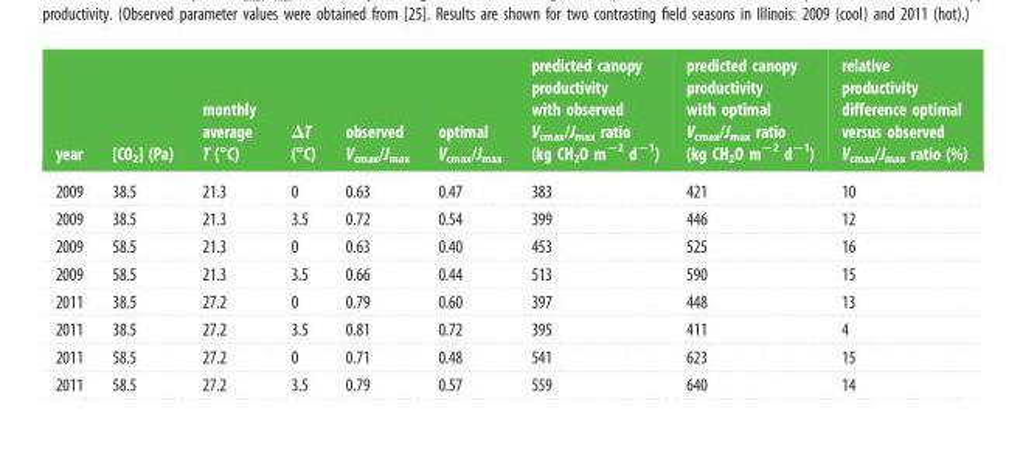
<table><thead><tr><td>year</td><td>[CO<sub>2</sub>] (Pa)</td><td>monthly average T (88888C)</td><td>DT (88888C)</td><td>observed V<sub>cmax</sub>/J<sub>max</sub></td><td>optimal V<sub>cmax</sub>/J<sub>max</sub></td><td>predicted canopy productivity with observed V<sub>cmax</sub>/J<sub>max</sub> ratio (kg CH<sub>2</sub>O m<sup>−2</sup> d<sup>−1</sup>)</td><td>predicted canopy productivity with optimal V<sub>cmax</sub>/J<sub>max</sub> ratio (kg CH<sub>2</sub>O m<sup>−2</sup> d<sup>−1</sup>)</td><td>relative productivity difference optimal versus observed V<sub>cmax</sub>/J<sub>max</sub> ratio (%)</td></tr></thead><tbody><tr><td>2009</td><td>38.5</td><td>21.3</td><td>0</td><td>0.63</td><td>0.47</td><td>383</td><td>421</td><td>10</td></tr><tr><td>2009</td><td>38.5</td><td>21.3</td><td>3.5</td><td>0.72</td><td>0.54</td><td>399</td><td>446</td><td>12</td></tr><tr><td>2009</td><td>58.5</td><td>21.3</td><td>0</td><td>0.63</td><td>0.40</td><td>453</td><td>525</td><td>16</td></tr><tr><td>2009</td><td>58.5</td><td>21.3</td><td>3.5</td><td>0.66</td><td>0.44</td><td>513</td><td>590</td><td>15</td></tr><tr><td>2011</td><td>38.5</td><td>27.2</td><td>0</td><td>0.79</td><td>0.60</td><td>397</td><td>448</td><td>13</td></tr><tr><td>2011</td><td>38.5</td><td>27.2</td><td>3.5</td><td>0.81</td><td>0.72</td><td>395</td><td>411</td><td>4</td></tr><tr><td>2011</td><td>58.5</td><td>27.2</td><td>0</td><td>0.71</td><td>0.48</td><td>541</td><td>623</td><td>15</td></tr><tr><td>2011</td><td>58.5</td><td>27.2</td><td>3.5</td><td>0.79</td><td>0.57</td><td>559</td><td>640</td><td>14</td></tr></tbody></table>